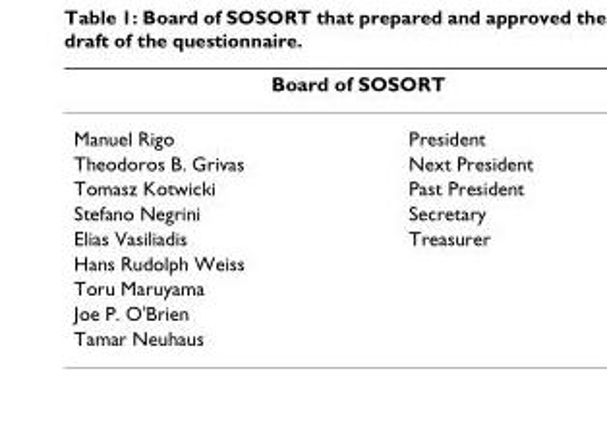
<table><thead><tr><td colspan="2">Board of SOSORT</td></tr><tr><td>Manuel Rigo</td><td>President</td></tr></thead><tbody><tr><td>Theodoros B. Grivas</td><td>Next President</td></tr><tr><td>Tomasz Kotwicki</td><td>Past President</td></tr><tr><td>Stefano Negrini</td><td>Secretary</td></tr><tr><td>Elias Vasiliadis</td><td>Treasurer</td></tr><tr><td colspan="2">Hans Rudolph Weiss</td></tr><tr><td colspan="2">Toru Maruyama</td></tr><tr><td colspan="2">Joe P. O&#x27;Brien</td></tr><tr><td>Tamar Neuhaus</td><td></td></tr></tbody></table>